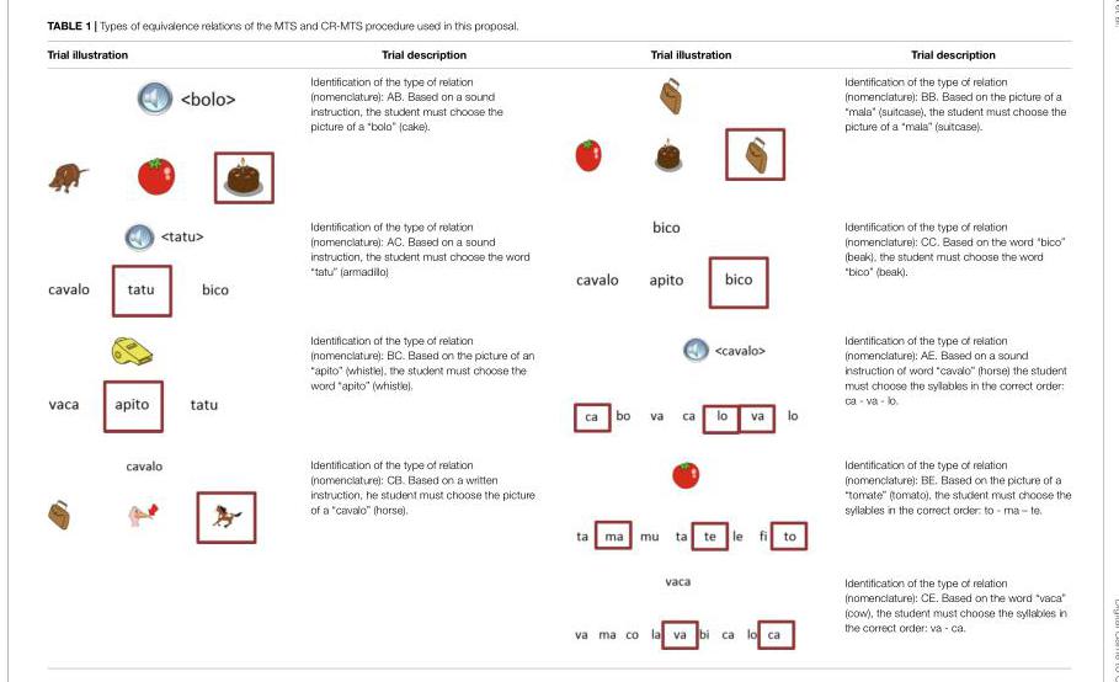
<table><thead><tr><td>Trial illustration</td><td>Trial description</td><td>Trial illustration</td><td>Trial description</td></tr></thead><tbody><tr><td></td><td>Identification of the type of relation (nomenclature): AB. Based on a sound instruction, the student must choose the picture of a “bolo” (cake).</td><td></td><td>Identification of the type of relation (nomenclature): BB. Based on the picture of a “mala” (suitcase), the student must choose the picture of a “mala” (suitcase).</td></tr><tr><td></td><td>Identification of the type of relation (nomenclature): AC. Based on a sound instruction, the student must choose the word “tatu” (armadillo)</td><td></td><td>Identification of the type of relation (nomenclature): CC. Based on the word “bico” (beak), the student must choose the word “bico” (beak).</td></tr><tr><td></td><td>Identification of the type of relation (nomenclature): BC. Based on the picture of an “apito” (whistle), the student must choose the word “apito” (whistle).</td><td></td><td>Identification of the type of relation (nomenclature): AE. Based on a sound instruction of word “cavalo” (horse) the student must choose the syllables in the correct order: ca - va - lo.</td></tr><tr><td></td><td>Identification of the type of relation (nomenclature): CB. Based on a written instruction, he student must choose the picture of a “cavalo” (horse).</td><td></td><td>Identification of the type of relation (nomenclature): BE. Based on the picture of a “tomate” (tomato), the student must choose the syllables in the correct order: to - ma – te.</td></tr><tr><td></td><td></td><td></td><td>Identification of the type of relation (nomenclature): CE. Based on the word “vaca” (cow), the student must choose the syllables in the correct order: va - ca.</td></tr></tbody></table>